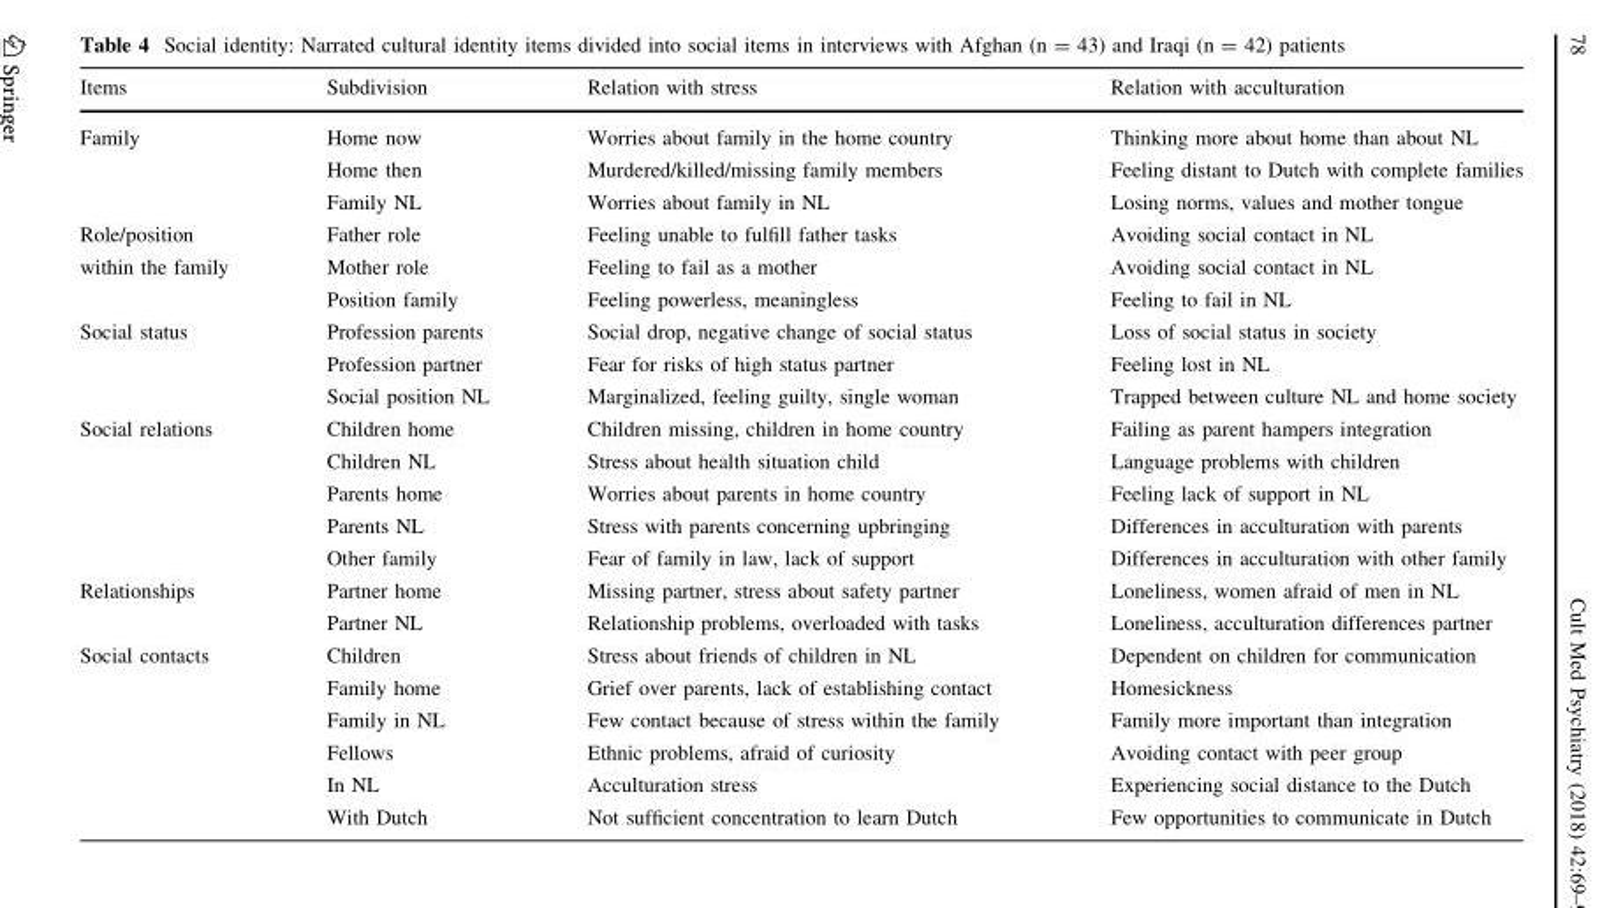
<table><thead><tr><td>Items</td><td>Subdivision</td><td>Relation with stress</td><td>Relation with acculturation</td></tr></thead><tbody><tr><td>Family</td><td>Home now Home then Family NL</td><td>Worries about family in the home country Murdered/killed/missing family members Worries about family in NL</td><td>Thinking more about home than about NL Feeling distant to Dutch with complete families Losing norms, values and mother tongue</td></tr><tr><td>Role/position within the family</td><td>Father role Mother role Position family</td><td>Feeling unable to fulfill father tasks Feeling to fail as a mother Feeling powerless, meaningless</td><td>Avoiding social contact in NL Avoiding social contact in NL Feeling to fail in NL</td></tr><tr><td>Social status</td><td>Profession parents Profession partner Social position NL</td><td>Social drop, negative change of social status Fear for risks of high status partner Marginalized, feeling guilty, single woman</td><td>Loss of social status in society Feeling lost in NL Trapped between culture NL and home society</td></tr><tr><td>Social relations</td><td>Children home Children NL Parents home Parents NL Other family</td><td>Children missing, children in home country Stress about health situation child Worries about parents in home country Stress with parents concerning upbringing Fear of family in law, lack of support</td><td>Failing as parent hampers integration Language problems with children Feeling lack of support in NL Differences in acculturation with parents Differences in acculturation with other family</td></tr><tr><td>Relationships</td><td>Partner home Partner NL</td><td>Missing partner, stress about safety partner Relationship problems, overloaded with tasks</td><td>Loneliness, women afraid of men in NL Loneliness, acculturation differences partner</td></tr><tr><td>Social contacts</td><td>Children Family home Family in NL Fellows In NL With Dutch</td><td>Stress about friends of children in NL Grief over parents, lack of establishing contact Few contact because of stress within the family Ethnic problems, afraid of curiosity Acculturation stress Not sufficient concentration to learn Dutch</td><td>Dependent on children for communication Homesickness Family more important than integration Avoiding contact with peer group Experiencing social distance to the Dutch Few opportunities to communicate in Dutch</td></tr></tbody></table>